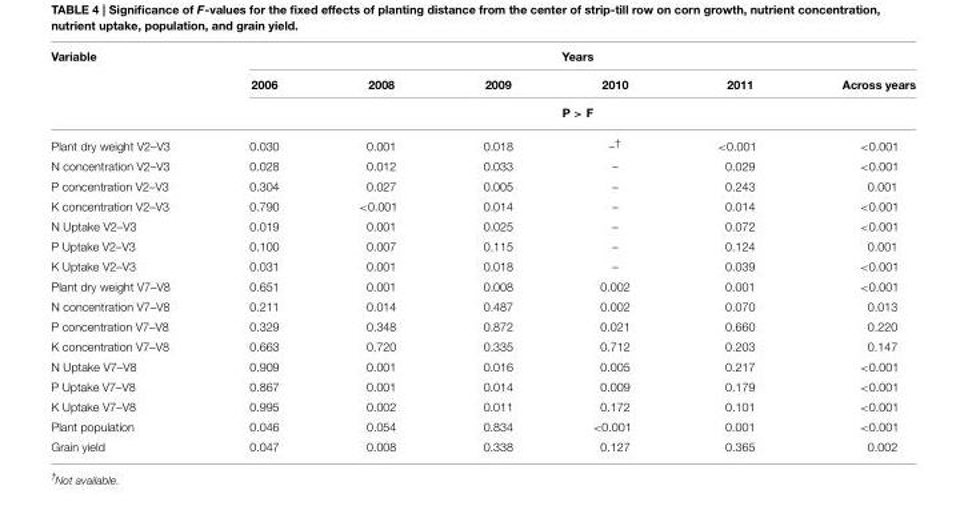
<table><thead><tr><td rowspan="3">Variable</td><td colspan="6">Years</td></tr><tr><td>2006</td><td>2008</td><td>2009</td><td>2010</td><td>2011</td><td>Across years</td></tr><tr><td colspan="6">P &gt; F</td></tr></thead><tbody><tr><td>Plant dry weight V2–V3</td><td>0.030</td><td>0.001</td><td>0.018</td><td>–<sup>†</sup></td><td>&lt;0.001</td><td>&lt;0.001</td></tr><tr><td>N concentration V2–V3</td><td>0.028</td><td>0.012</td><td>0.033</td><td>–</td><td>0.029</td><td>&lt;0.001</td></tr><tr><td>P concentration V2–V3</td><td>0.304</td><td>0.027</td><td>0.005</td><td>–</td><td>0.243</td><td>0.001</td></tr><tr><td>K concentration V2–V3</td><td>0.790</td><td>&lt;0.001</td><td>0.014</td><td>–</td><td>0.014</td><td>&lt;0.001</td></tr><tr><td>N Uptake V2–V3</td><td>0.019</td><td>0.001</td><td>0.025</td><td>–</td><td>0.072</td><td>&lt;0.001</td></tr><tr><td>P Uptake V2–V3</td><td>0.100</td><td>0.007</td><td>0.115</td><td>–</td><td>0.124</td><td>0.001</td></tr><tr><td>K Uptake V2–V3</td><td>0.031</td><td>0.001</td><td>0.018</td><td>–</td><td>0.039</td><td>&lt;0.001</td></tr><tr><td>Plant dry weight V7–V8</td><td>0.651</td><td>0.001</td><td>0.008</td><td>0.002</td><td>0.001</td><td>&lt;0.001</td></tr><tr><td>N concentration V7–V8</td><td>0.211</td><td>0.014</td><td>0.487</td><td>0.002</td><td>0.070</td><td>0.013</td></tr><tr><td>P concentration V7–V8</td><td>0.329</td><td>0.348</td><td>0.872</td><td>0.021</td><td>0.660</td><td>0.220</td></tr><tr><td>K concentration V7–V8</td><td>0.663</td><td>0.720</td><td>0.335</td><td>0.712</td><td>0.203</td><td>0.147</td></tr><tr><td>N Uptake V7–V8</td><td>0.909</td><td>0.001</td><td>0.016</td><td>0.005</td><td>0.217</td><td>&lt;0.001</td></tr><tr><td>P Uptake V7–V8</td><td>0.867</td><td>0.001</td><td>0.014</td><td>0.009</td><td>0.179</td><td>&lt;0.001</td></tr><tr><td>K Uptake V7–V8</td><td>0.995</td><td>0.002</td><td>0.011</td><td>0.172</td><td>0.101</td><td>&lt;0.001</td></tr><tr><td>Plant population</td><td>0.046</td><td>0.054</td><td>0.834</td><td>&lt;0.001</td><td>0.001</td><td>&lt;0.001</td></tr><tr><td>Grain yield</td><td>0.047</td><td>0.008</td><td>0.338</td><td>0.127</td><td>0.365</td><td>0.002</td></tr></tbody></table>